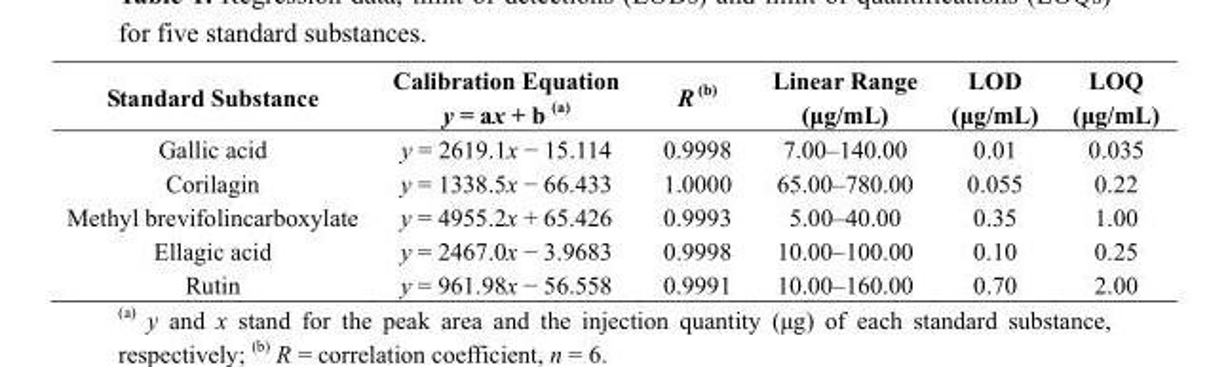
<table><thead><tr><td>Standard Substance</td><td>Calibration Equation y = ax + b (a)</td><td>R (b)</td><td>Linear Range (μg/mL)</td><td>LOD (μg/mL)</td><td>LOQ (μg/mL)</td></tr></thead><tbody><tr><td>Gallic acid</td><td>y = 2619.1x − 15.114</td><td>0.9998</td><td>7.00–140.00</td><td>0.01</td><td>0.035</td></tr><tr><td>Corilagin</td><td>y = 1338.5x − 66.433</td><td>1.0000</td><td>65.00–780.00</td><td>0.055</td><td>0.22</td></tr><tr><td>Methyl brevifolincarboxylate</td><td>y = 4955.2x + 65.426</td><td>0.9993</td><td>5.00–40.00</td><td>0.35</td><td>1.00</td></tr><tr><td>Ellagic acid</td><td>y = 2467.0x − 3.9683</td><td>0.9998</td><td>10.00–100.00</td><td>0.10</td><td>0.25</td></tr><tr><td>Rutin</td><td>y = 961.98x − 56.558</td><td>0.9991</td><td>10.00–160.00</td><td>0.70</td><td>2.00</td></tr></tbody></table>